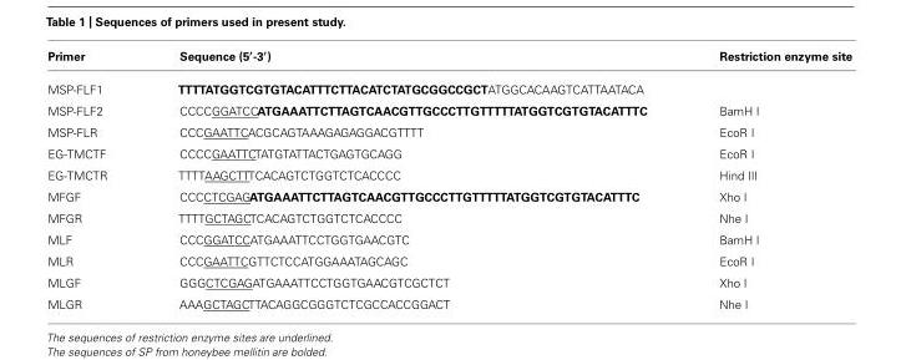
<table><thead><tr><td>Primer</td><td>Sequence (5′-3′)</td><td>Restriction enzyme site</td></tr></thead><tbody><tr><td>MSP-FLF1</td><td>TTTTATGGTCGTGTACATTTCTTACATCTATGCGGCCGCTATGGCACAAGTCATTAATACA</td><td></td></tr><tr><td>MSP-FLF2</td><td>CCCCGGATCCATGAAATTCTTAGTCAACGTTGCCCTTGTTTTTATGGTCGTGTACATTTC</td><td>BamH I</td></tr><tr><td>MSP-FLR</td><td>CCCGAATTCACGCAGTAAAGAGAGGACGTTTT</td><td>EcoR I</td></tr><tr><td>EG-TMCTF</td><td>CCCCGAATTCTATGTATTACTGAGTGCAGG</td><td>EcoR I</td></tr><tr><td>EG-TMCTR</td><td>TTTTAAGCTTTCACAGTCTGGTCTCACCCC</td><td>Hind III</td></tr><tr><td>MFGF</td><td>CCCCTCGAGATGAAATTCTTAGTCAACGTTGCCCTTGTTTTTATGGTCGTGTACATTTC</td><td>Xho I</td></tr><tr><td>MFGR</td><td>TTTTGCTAGCTCACAGTCTGGTCTCACCCC</td><td>Nhe I</td></tr><tr><td>MLF</td><td>CCCGGATCCATGAAATTCCTGGTGAACGTC</td><td>BamH I</td></tr><tr><td>MLR</td><td>CCCGAATTCGTTCTCCATGGAAATAGCAGC</td><td>EcoR I</td></tr><tr><td>MLGF</td><td>GGGCTCGAGATGAAATTCCTGGTGAACGTCGCTCT</td><td>Xho I</td></tr><tr><td>MLGR</td><td>AAAGCTAGCTTACAGGCGGGTCTCGCCACCGGACT</td><td>Nhe I</td></tr></tbody></table>